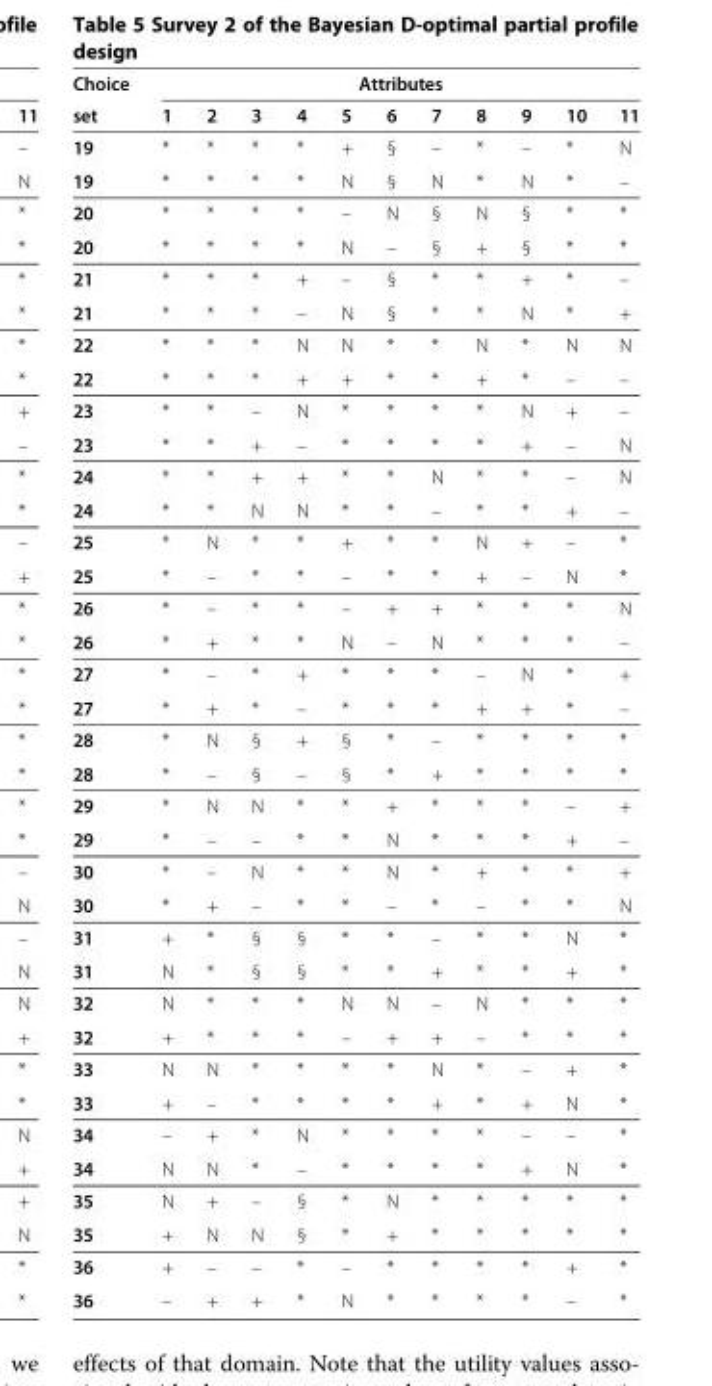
<table><thead><tr><td rowspan="2">Choice set</td><td colspan="11">Attributes</td></tr><tr><td>1</td><td>2</td><td>3</td><td>4</td><td>5</td><td>6</td><td>7</td><td>8</td><td>9</td><td>10</td><td>11</td></tr></thead><tbody><tr><td>19</td><td>*</td><td>*</td><td>*</td><td>*</td><td>+</td><td>§</td><td>–</td><td>*</td><td>–</td><td>*</td><td>N</td></tr><tr><td>19</td><td>*</td><td>*</td><td>*</td><td>*</td><td>N</td><td>§</td><td>N</td><td>*</td><td>N</td><td>*</td><td>–</td></tr><tr><td>20</td><td>*</td><td>*</td><td>*</td><td>*</td><td>–</td><td>N</td><td>§</td><td>N</td><td>§</td><td>*</td><td>*</td></tr><tr><td>20</td><td>*</td><td>*</td><td>*</td><td>*</td><td>N</td><td>–</td><td>§</td><td>+</td><td>§</td><td>*</td><td>*</td></tr><tr><td>21</td><td>*</td><td>*</td><td>*</td><td>+</td><td>–</td><td>§</td><td>*</td><td>*</td><td>+</td><td>*</td><td>–</td></tr><tr><td>21</td><td>*</td><td>*</td><td>*</td><td>–</td><td>N</td><td>§</td><td>*</td><td>*</td><td>N</td><td>*</td><td>+</td></tr><tr><td>22</td><td>*</td><td>*</td><td>*</td><td>N</td><td>N</td><td>*</td><td>*</td><td>N</td><td>*</td><td>N</td><td>N</td></tr><tr><td>22</td><td>*</td><td>*</td><td>*</td><td>+</td><td>+</td><td>*</td><td>*</td><td>+</td><td>*</td><td>–</td><td>–</td></tr><tr><td>23</td><td>*</td><td>*</td><td>–</td><td>N</td><td>*</td><td>*</td><td>*</td><td>*</td><td>N</td><td>+</td><td>–</td></tr><tr><td>23</td><td>*</td><td>*</td><td>+</td><td>–</td><td>*</td><td>*</td><td>*</td><td>*</td><td>+</td><td>–</td><td>N</td></tr><tr><td>24</td><td>*</td><td>*</td><td>+</td><td>+</td><td>*</td><td>*</td><td>N</td><td>*</td><td>*</td><td>–</td><td>N</td></tr><tr><td>24</td><td>*</td><td>*</td><td>N</td><td>N</td><td>*</td><td>*</td><td>–</td><td>*</td><td>*</td><td>+</td><td>–</td></tr><tr><td>25</td><td>*</td><td>N</td><td>*</td><td>*</td><td>+</td><td>*</td><td>*</td><td>N</td><td>+</td><td>–</td><td>*</td></tr><tr><td>25</td><td>*</td><td>–</td><td>*</td><td>*</td><td>–</td><td>*</td><td>*</td><td>+</td><td>–</td><td>N</td><td>*</td></tr><tr><td>26</td><td>*</td><td>–</td><td>*</td><td>*</td><td>–</td><td>+</td><td>+</td><td>*</td><td>*</td><td>*</td><td>N</td></tr><tr><td>26</td><td>*</td><td>+</td><td>*</td><td>*</td><td>N</td><td>–</td><td>N</td><td>*</td><td>*</td><td>*</td><td>–</td></tr><tr><td>27</td><td>*</td><td>–</td><td>*</td><td>+</td><td>*</td><td>*</td><td>*</td><td>–</td><td>N</td><td>*</td><td>+</td></tr><tr><td>27</td><td>*</td><td>+</td><td>*</td><td>–</td><td>*</td><td>*</td><td>*</td><td>+</td><td>+</td><td>*</td><td>–</td></tr><tr><td>28</td><td>*</td><td>N</td><td>§</td><td>+</td><td>§</td><td>*</td><td>–</td><td>*</td><td>*</td><td>*</td><td>*</td></tr><tr><td>28</td><td>*</td><td>–</td><td>§</td><td>–</td><td>§</td><td>*</td><td>+</td><td>*</td><td>*</td><td>*</td><td>*</td></tr><tr><td>29</td><td>*</td><td>N</td><td>N</td><td>*</td><td>*</td><td>+</td><td>*</td><td>*</td><td>*</td><td>–</td><td>+</td></tr><tr><td>29</td><td>*</td><td>–</td><td>–</td><td>*</td><td>*</td><td>N</td><td>*</td><td>*</td><td>*</td><td>+</td><td>–</td></tr><tr><td>30</td><td>*</td><td>–</td><td>N</td><td>*</td><td>*</td><td>N</td><td>*</td><td>+</td><td>*</td><td>*</td><td>+</td></tr><tr><td>30</td><td>*</td><td>+</td><td>–</td><td>*</td><td>*</td><td>–</td><td>*</td><td>–</td><td>*</td><td>*</td><td>N</td></tr><tr><td>31</td><td>+</td><td>*</td><td>§</td><td>§</td><td>*</td><td>*</td><td>–</td><td>*</td><td>*</td><td>N</td><td>*</td></tr><tr><td>31</td><td>N</td><td>*</td><td>§</td><td>§</td><td>*</td><td>*</td><td>+</td><td>*</td><td>*</td><td>+</td><td>*</td></tr><tr><td>32</td><td>N</td><td>*</td><td>*</td><td>*</td><td>N</td><td>N</td><td>–</td><td>N</td><td>*</td><td>*</td><td>*</td></tr><tr><td>32</td><td>+</td><td>*</td><td>*</td><td>*</td><td>–</td><td>+</td><td>+</td><td>–</td><td>*</td><td>*</td><td>*</td></tr><tr><td>33</td><td>N</td><td>N</td><td>*</td><td>*</td><td>*</td><td>*</td><td>N</td><td>*</td><td>–</td><td>+</td><td>*</td></tr><tr><td>33</td><td>+</td><td>–</td><td>*</td><td>*</td><td>*</td><td>*</td><td>+</td><td>*</td><td>+</td><td>N</td><td>*</td></tr><tr><td>34</td><td>–</td><td>+</td><td>*</td><td>N</td><td>*</td><td>*</td><td>*</td><td>*</td><td>–</td><td>–</td><td>*</td></tr><tr><td>34</td><td>N</td><td>N</td><td>*</td><td>–</td><td>*</td><td>*</td><td>*</td><td>*</td><td>+</td><td>N</td><td>*</td></tr><tr><td>35</td><td>N</td><td>+</td><td>–</td><td>§</td><td>*</td><td>N</td><td>*</td><td>*</td><td>*</td><td>*</td><td>*</td></tr><tr><td>35</td><td>+</td><td>N</td><td>N</td><td>§</td><td>*</td><td>+</td><td>*</td><td>*</td><td>*</td><td>*</td><td>*</td></tr><tr><td>36</td><td>+</td><td>–</td><td>–</td><td>*</td><td>–</td><td>*</td><td>*</td><td>*</td><td>*</td><td>+</td><td>*</td></tr><tr><td>36</td><td>–</td><td>+</td><td>+</td><td>*</td><td>N</td><td>*</td><td>*</td><td>*</td><td>*</td><td>–</td><td>*</td></tr></tbody></table>